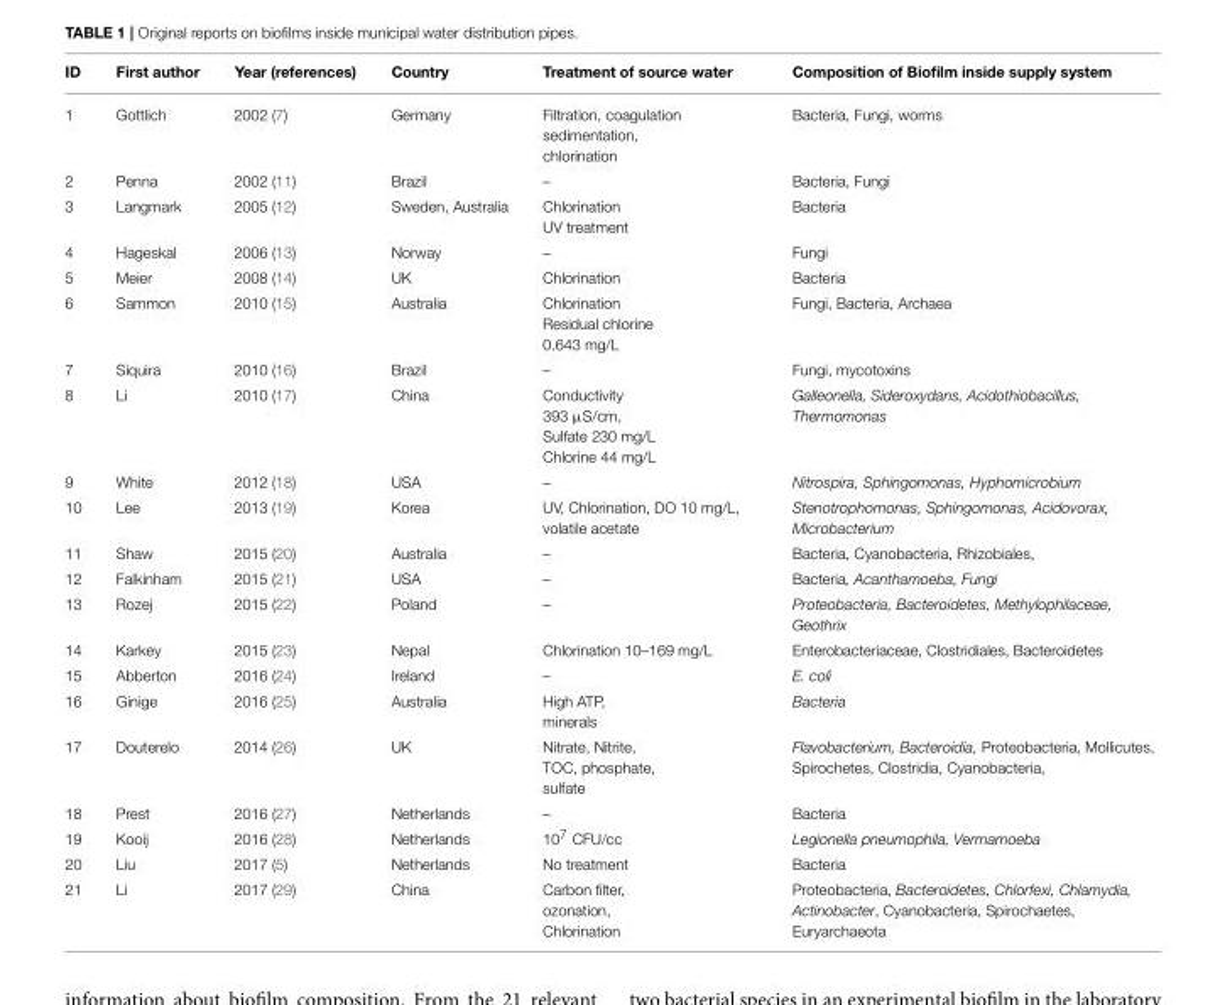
<table><thead><tr><td>ID</td><td>First author</td><td>Year (references)</td><td>Country</td><td>Treatment of source water</td><td>Composition of Biofilm inside supply system</td></tr></thead><tbody><tr><td>1</td><td>Gottlich</td><td>2002 (7)</td><td>Germany</td><td>Filtration, coagulation sedimentation, chlorination</td><td>Bacteria, Fungi, worms</td></tr><tr><td>2</td><td>Penna</td><td>2002 (11)</td><td>Brazil</td><td>–</td><td>Bacteria, Fungi</td></tr><tr><td>3</td><td>Langmark</td><td>2005 (12)</td><td>Sweden, Australia</td><td>Chlorination UV treatment</td><td>Bacteria</td></tr><tr><td>4</td><td>Hageskal</td><td>2006 (13)</td><td>Norway</td><td>–</td><td>Fungi</td></tr><tr><td>5</td><td>Meier</td><td>2008 (14)</td><td>UK</td><td>Chlorination</td><td>Bacteria</td></tr><tr><td>6</td><td>Sammon</td><td>2010 (15)</td><td>Australia</td><td>Chlorination Residual chlorine 0.643 mg/L</td><td>Fungi, Bacteria, Archaea</td></tr><tr><td>7</td><td>Siquira</td><td>2010 (16)</td><td>Brazil</td><td>–</td><td>Fungi, mycotoxins</td></tr><tr><td>8</td><td>Li</td><td>2010 (17)</td><td>China</td><td>Conductivity 393 µS/cm, Sulfate 230 mg/L Chlorine 44 mg/L</td><td>Galleonella, Sideroxydans, Acidothiobacillus, Thermomonas</td></tr><tr><td>9</td><td>White</td><td>2012 (18)</td><td>USA</td><td>–</td><td>Nitrospira, Sphingomonas, Hyphomicrobium</td></tr><tr><td>10</td><td>Lee</td><td>2013 (19)</td><td>Korea</td><td>UV, Chlorination, DO 10 mg/L, volatile acetate</td><td>Stenotrophomonas, Sphingomonas, Acidovorax, Microbacterium</td></tr><tr><td>11</td><td>Shaw</td><td>2015 (20)</td><td>Australia</td><td>–</td><td>Bacteria, Cyanobacteria, Rhizobiales,</td></tr><tr><td>12</td><td>Falkinham</td><td>2015 (21)</td><td>USA</td><td>–</td><td>Bacteria, Acanthamoeba, Fungi</td></tr><tr><td>13</td><td>Rozej</td><td>2015 (22)</td><td>Poland</td><td>–</td><td>Proteobacteria, Bacteroidetes, Methylophilaceae, Geothrix</td></tr><tr><td>14</td><td>Karkey</td><td>2015 (23)</td><td>Nepal</td><td>Chlorination 10–169 mg/L</td><td>Enterobacteriaceae, Clostridiales, Bacteroidetes</td></tr><tr><td>15</td><td>Abberton</td><td>2016 (24)</td><td>Ireland</td><td>–</td><td>E. coli</td></tr><tr><td>16</td><td>Ginige</td><td>2016 (25)</td><td>Australia</td><td>High ATP, minerals</td><td>Bacteria</td></tr><tr><td>17</td><td>Douterelo</td><td>2014 (26)</td><td>UK</td><td>Nitrate, Nitrite, TOC, phosphate, sulfate</td><td>Flavobacterium, Bacteroidia, Proteobacteria, Mollicutes, Spirochetes, Clostridia, Cyanobacteria,</td></tr><tr><td>18</td><td>Prest</td><td>2016 (27)</td><td>Netherlands</td><td>–</td><td>Bacteria</td></tr><tr><td>19</td><td>Kooij</td><td>2016 (28)</td><td>Netherlands</td><td>10<sup>7</sup> CFU/cc</td><td>Legionella pneumophila, Vermamoeba</td></tr><tr><td>20</td><td>Liu</td><td>2017 (5)</td><td>Netherlands</td><td>No treatment</td><td>Bacteria</td></tr><tr><td>21</td><td>Li</td><td>2017 (29)</td><td>China</td><td>Carbon filter, ozonation, Chlorination</td><td>Proteobacteria, Bacteroidetes, Chlorfexi, Chlamydia, Actinobacter, Cyanobacteria, Spirochaetes, Euryarchaeota</td></tr></tbody></table>